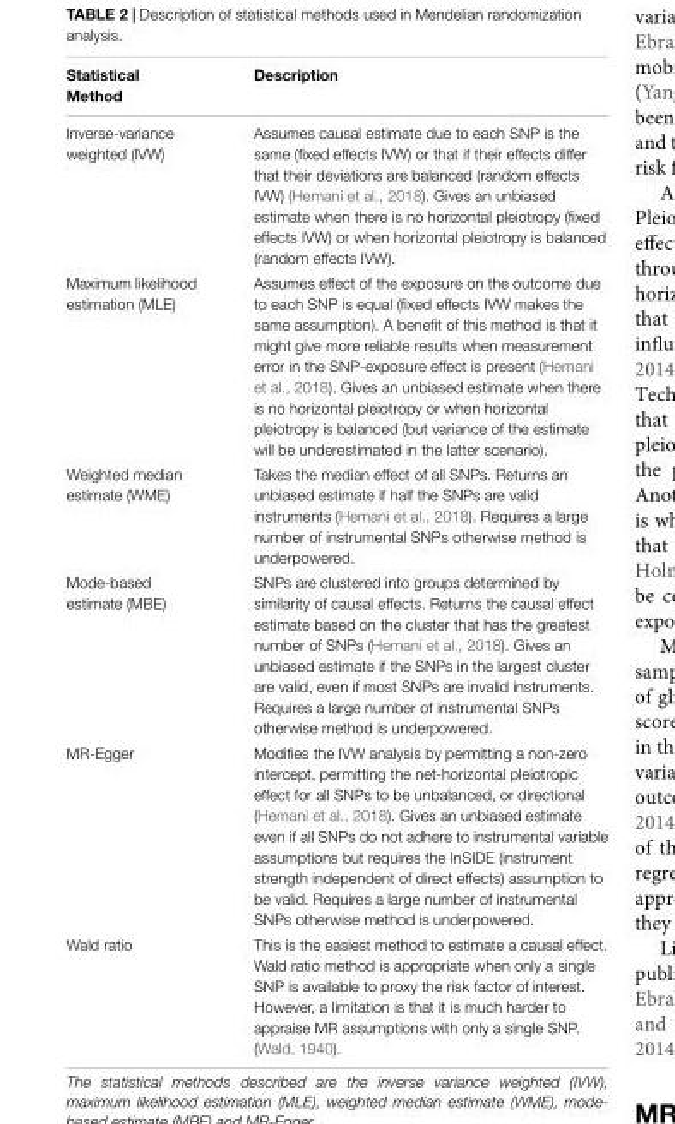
<table><thead><tr><td>Statistical Method</td><td>Description</td></tr></thead><tbody><tr><td>Inverse-variance weighted (IVW)</td><td>Assumes causal estimate due to each SNP is the same (fixed effects IVW) or that if their effects differ that their deviations are balanced (random effects IVW) (Hemani et al., 2018). Gives an unbiased estimate when there is no horizontal pleiotropy (fixed effects IVW) or when horizontal pleiotropy is balanced (random effects IVW).</td></tr><tr><td>Maximum likelihood estimation (MLE)</td><td>Assumes effect of the exposure on the outcome due to each SNP is equal (fixed effects IVW makes the same assumption). A benefit of this method is that it might give more reliable results when measurement error in the SNP-exposure effect is present (Hemani et al., 2018). Gives an unbiased estimate when there is no horizontal pleiotropy or when horizontal pleiotropy is balanced (but variance of the estimate will be underestimated in the latter scenario).</td></tr><tr><td>Weighted median estimate (WME)</td><td>Takes the median effect of all SNPs. Returns an unbiased estimate if half the SNPs are valid instruments (Hemani et al., 2018). Requires a large number of instrumental SNPs otherwise method is underpowered.</td></tr><tr><td>Mode-based estimate (MBE)</td><td>SNPs are clustered into groups determined by similarity of causal effects. Returns the causal effect estimate based on the cluster that has the greatest number of SNPs (Hemani et al., 2018). Gives an unbiased estimate if the SNPs in the largest cluster are valid, even if most SNPs are invalid instruments. Requires a large number of instrumental SNPs otherwise method is underpowered.</td></tr><tr><td>MR-Egger</td><td>Modifies the IVW analysis by permitting a non-zero intercept, permitting the net-horizontal pleiotropic effect for all SNPs to be unbalanced, or directional (Hemani et al., 2018). Gives an unbiased estimate even if all SNPs do not adhere to instrumental variable assumptions but requires the InSIDE (instrument strength independent of direct effects) assumption to be valid. Requires a large number of instrumental SNPs otherwise method is underpowered.</td></tr><tr><td>Wald ratio</td><td>This is the easiest method to estimate a causal effect. Wald ratio method is appropriate when only a single SNP is available to proxy the risk factor of interest. However, a limitation is that it is much harder to appraise MR assumptions with only a single SNP. (Wald, 1940).</td></tr></tbody></table>